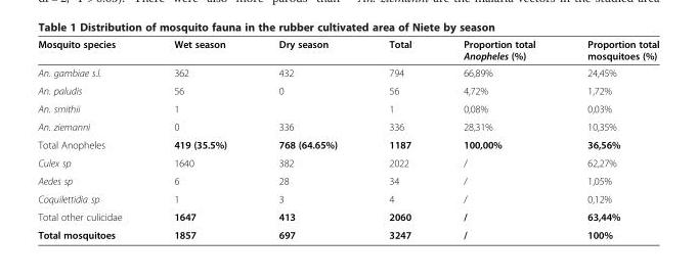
<table><thead><tr><td>Mosquito species</td><td>Wet season</td><td>Dry season</td><td>Total</td><td>Proportion total Anopheles (%)</td><td>Proportion total mosquitoes (%)</td></tr></thead><tbody><tr><td>An. gambiae s.l.</td><td>362</td><td>432</td><td>794</td><td>66,89%</td><td>24,45%</td></tr><tr><td>An. paludis</td><td>56</td><td>0</td><td>56</td><td>4,72%</td><td>1,72%</td></tr><tr><td>An. smithii</td><td>1</td><td></td><td>1</td><td>0,08%</td><td>0,03%</td></tr><tr><td>An. ziemanni</td><td>0</td><td>336</td><td>336</td><td>28,31%</td><td>10,35%</td></tr><tr><td>Total Anopheles</td><td>419 (35.5%)</td><td>768 (64.65%)</td><td>1187</td><td>100,00%</td><td>36,56%</td></tr><tr><td>Culex sp</td><td>1640</td><td>382</td><td>2022</td><td>/</td><td>62,27%</td></tr><tr><td>Aedes sp</td><td>6</td><td>28</td><td>34</td><td>/</td><td>1,05%</td></tr><tr><td>Coquilettidia sp</td><td>1</td><td>3</td><td>4</td><td>/</td><td>0,12%</td></tr><tr><td>Total other culicidae</td><td>1647</td><td>413</td><td>2060</td><td>/</td><td>63,44%</td></tr><tr><td>Total mosquitoes</td><td>1857</td><td>697</td><td>3247</td><td>/</td><td>100%</td></tr></tbody></table>